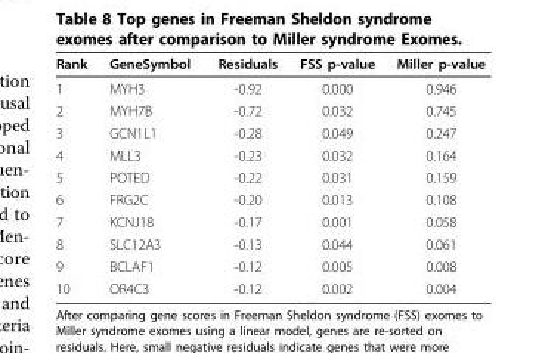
<table><thead><tr><td>Rank</td><td>GeneSymbol</td><td>Residuals</td><td>FSS p-value</td><td>Miller p-value</td></tr></thead><tbody><tr><td>1</td><td>MYH3</td><td>-0.92</td><td>0.000</td><td>0.946</td></tr><tr><td>2</td><td>MYH7B</td><td>-0.72</td><td>0.032</td><td>0.745</td></tr><tr><td>3</td><td>GCN1L1</td><td>-0.28</td><td>0.049</td><td>0.247</td></tr><tr><td>4</td><td>MLL3</td><td>-0.23</td><td>0.032</td><td>0.164</td></tr><tr><td>5</td><td>POTED</td><td>-0.22</td><td>0.031</td><td>0.159</td></tr><tr><td>6</td><td>FRG2C</td><td>-0.20</td><td>0.013</td><td>0.108</td></tr><tr><td>7</td><td>KCNJ18</td><td>-0.17</td><td>0.001</td><td>0.058</td></tr><tr><td>8</td><td>SLC12A3</td><td>-0.13</td><td>0.044</td><td>0.061</td></tr><tr><td>9</td><td>BCLAF1</td><td>-0.12</td><td>0.005</td><td>0.008</td></tr><tr><td>10</td><td>OR4C3</td><td>-0.12</td><td>0.002</td><td>0.004</td></tr></tbody></table>